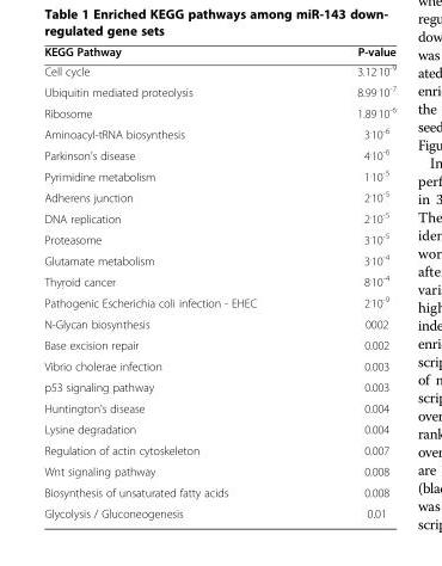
<table><thead><tr><td>KEGG Pathway</td><td>P-value</td></tr></thead><tbody><tr><td>Cell cycle</td><td>3.12<sup>.</sup>10<sup>-9</sup></td></tr><tr><td>Ubiquitin mediated proteolysis</td><td>8.99<sup>.</sup>10<sup>-7</sup></td></tr><tr><td>Ribosome</td><td>1.89<sup>.</sup>10<sup>-6</sup></td></tr><tr><td>Aminoacyl-tRNA biosynthesis</td><td>3<sup>.</sup>10<sup>-6</sup></td></tr><tr><td>Parkinson&#x27;s disease</td><td>4<sup>.</sup>10<sup>-6</sup></td></tr><tr><td>Pyrimidine metabolism</td><td>1<sup>.</sup>10<sup>-5</sup></td></tr><tr><td>Adherens junction</td><td>2<sup>.</sup>10<sup>-5</sup></td></tr><tr><td>DNA replication</td><td>2<sup>.</sup>10<sup>-5</sup></td></tr><tr><td>Proteasome</td><td>3<sup>.</sup>10<sup>-5</sup></td></tr><tr><td>Glutamate metabolism</td><td>3<sup>.</sup>10<sup>-4</sup></td></tr><tr><td>Thyroid cancer</td><td>8<sup>.</sup>10<sup>-4</sup></td></tr><tr><td>Pathogenic Escherichia coli infection - EHEC</td><td>2<sup>.</sup>10<sup>-9</sup></td></tr><tr><td>N-Glycan biosynthesis</td><td>0002</td></tr><tr><td>Base excision repair</td><td>0.002</td></tr><tr><td>Vibrio cholerae infection</td><td>0.003</td></tr><tr><td>p53 signaling pathway</td><td>0.003</td></tr><tr><td>Huntington&#x27;s disease</td><td>0.004</td></tr><tr><td>Lysine degradation</td><td>0.004</td></tr><tr><td>Regulation of actin cytoskeleton</td><td>0.007</td></tr><tr><td>Wnt signaling pathway</td><td>0.008</td></tr><tr><td>Biosynthesis of unsaturated fatty acids</td><td>0.008</td></tr><tr><td>Glycolysis / Gluconeogenesis</td><td>0.01</td></tr></tbody></table>